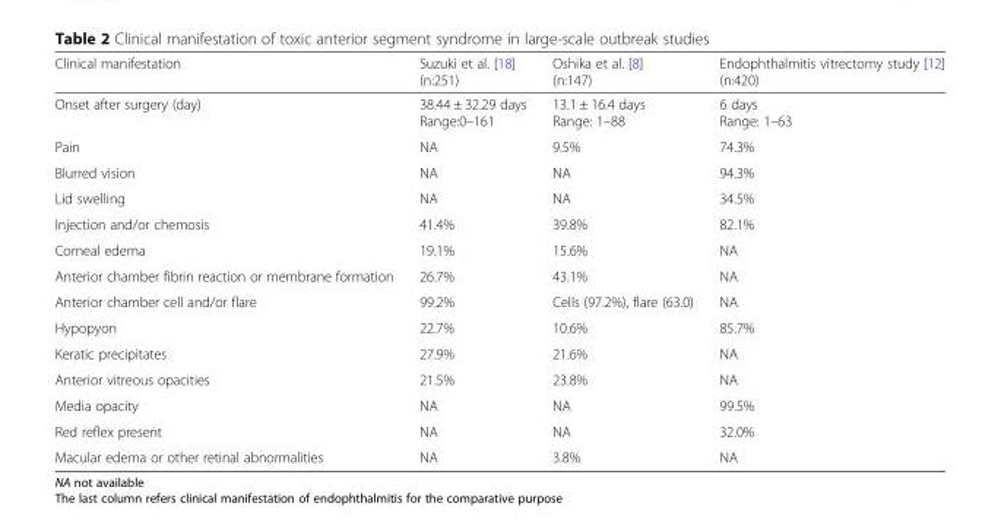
<table><thead><tr><td>Clinical manifestation</td><td>Suzuki et al. [18] (n:251)</td><td>Oshika et al. [8] (n:147)</td><td>Endophthalmitis vitrectomy study [12] (n:420)</td></tr></thead><tbody><tr><td>Onset after surgery (day)</td><td>38.44 ± 32.29 days Range:0–161</td><td>13.1 ± 16.4 days Range: 1–88</td><td>6 days Range: 1–63</td></tr><tr><td>Pain</td><td>NA</td><td>9.5%</td><td>74.3%</td></tr><tr><td>Blurred vision</td><td>NA</td><td>NA</td><td>94.3%</td></tr><tr><td>Lid swelling</td><td>NA</td><td>NA</td><td>34.5%</td></tr><tr><td>Injection and/or chemosis</td><td>41.4%</td><td>39.8%</td><td>82.1%</td></tr><tr><td>Corneal edema</td><td>19.1%</td><td>15.6%</td><td>NA</td></tr><tr><td>Anterior chamber fibrin reaction or membrane formation</td><td>26.7%</td><td>43.1%</td><td>NA</td></tr><tr><td>Anterior chamber cell and/or flare</td><td>99.2%</td><td>Cells (97.2%), flare (63.0)</td><td>NA</td></tr><tr><td>Hypopyon</td><td>22.7%</td><td>10.6%</td><td>85.7%</td></tr><tr><td>Keratic precipitates</td><td>27.9%</td><td>21.6%</td><td>NA</td></tr><tr><td>Anterior vitreous opacities</td><td>21.5%</td><td>23.8%</td><td>NA</td></tr><tr><td>Media opacity</td><td>NA</td><td>NA</td><td>99.5%</td></tr><tr><td>Red reflex present</td><td>NA</td><td>NA</td><td>32.0%</td></tr><tr><td>Macular edema or other retinal abnormalities</td><td>NA</td><td>3.8%</td><td>NA</td></tr></tbody></table>